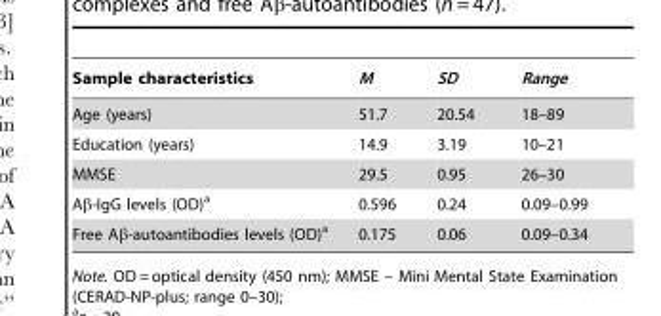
<table><thead><tr><td>Sample characteristics</td><td>M</td><td>SD</td><td>Range</td></tr></thead><tbody><tr><td>Age (years)</td><td>51.7</td><td>20.54</td><td>18–89</td></tr><tr><td>Education (years)</td><td>14.9</td><td>3.19</td><td>10–21</td></tr><tr><td>MMSE</td><td>29.5</td><td>0.95</td><td>26–30</td></tr><tr><td>Aβ-IgG levels (OD)<sup>a</sup></td><td>0.596</td><td>0.24</td><td>0.09–0.99</td></tr><tr><td>Free Aβ-autoantibodies levels (OD)<sup>a</sup></td><td>0.175</td><td>0.06</td><td>0.09–0.34</td></tr></tbody></table>